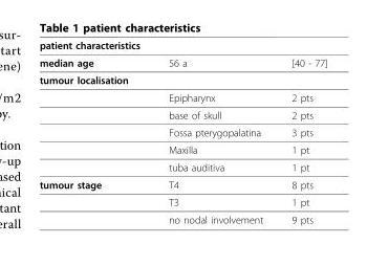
<table><thead><tr><td>patient characteristics</td><td></td><td></td></tr></thead><tbody><tr><td>median age</td><td>56 a</td><td>[40 - 77]</td></tr><tr><td colspan="3">tumour localisation</td></tr><tr><td></td><td>Epipharynx</td><td>2 pts</td></tr><tr><td></td><td>base of skull</td><td>2 pts</td></tr><tr><td></td><td>Fossa pterygopalatina</td><td>3 pts</td></tr><tr><td></td><td>Maxilla</td><td>1 pt</td></tr><tr><td></td><td>tuba auditiva</td><td>1 pt</td></tr><tr><td rowspan="3">tumour stage</td><td>T4</td><td>8 pts</td></tr><tr><td>T3</td><td>1 pt</td></tr><tr><td>no nodal involvement</td><td>9 pts</td></tr></tbody></table>